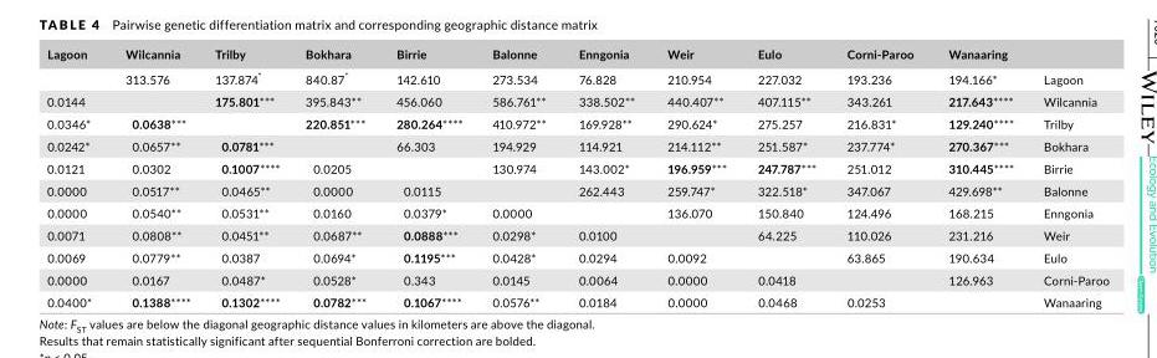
<table><thead><tr><td>Lagoon</td><td>Wilcannia</td><td>Trilby</td><td>Bokhara</td><td>Birrie</td><td>Balonne</td><td>Enngonia</td><td>Weir</td><td>Eulo</td><td>Corni‐Paroo</td><td>Wanaaring</td><td></td></tr></thead><tbody><tr><td></td><td>313.576</td><td>137.874*</td><td>840.87*</td><td>142.610</td><td>273.534</td><td>76.828</td><td>210.954</td><td>227.032</td><td>193.236</td><td>194.166*</td><td>Lagoon</td></tr><tr><td>0.0144</td><td></td><td>175.801***</td><td>395.843**</td><td>456.060</td><td>586.761**</td><td>338.502**</td><td>440.407**</td><td>407.115**</td><td>343.261</td><td>217.643****</td><td>Wilcannia</td></tr><tr><td>0.0346*</td><td>0.0638***</td><td></td><td>220.851***</td><td>280.264****</td><td>410.972**</td><td>169.928**</td><td>290.624*</td><td>275.257</td><td>216.831*</td><td>129.240****</td><td>Trilby</td></tr><tr><td>0.0242*</td><td>0.0657**</td><td>0.0781***</td><td></td><td>66.303</td><td>194.929</td><td>114.921</td><td>214.112**</td><td>251.587*</td><td>237.774*</td><td>270.367***</td><td>Bokhara</td></tr><tr><td>0.0121</td><td>0.0302</td><td>0.1007****</td><td>0.0205</td><td></td><td>130.974</td><td>143.002*</td><td>196.959***</td><td>247.787***</td><td>251.012</td><td>310.445****</td><td>Birrie</td></tr><tr><td>0.0000</td><td>0.0517**</td><td>0.0465**</td><td>0.0000</td><td>0.0115</td><td></td><td>262.443</td><td>259.747*</td><td>322.518*</td><td>347.067</td><td>429.698**</td><td>Balonne</td></tr><tr><td>0.0000</td><td>0.0540**</td><td>0.0531**</td><td>0.0160</td><td>0.0379*</td><td>0.0000</td><td></td><td>136.070</td><td>150.840</td><td>124.496</td><td>168.215</td><td>Enngonia</td></tr><tr><td>0.0071</td><td>0.0808**</td><td>0.0451**</td><td>0.0687**</td><td>0.0888***</td><td>0.0298*</td><td>0.0100</td><td></td><td>64.225</td><td>110.026</td><td>231.216</td><td>Weir</td></tr><tr><td>0.0069</td><td>0.0779**</td><td>0.0387</td><td>0.0694*</td><td>0.1195***</td><td>0.0428*</td><td>0.0294</td><td>0.0092</td><td></td><td>63.865</td><td>190.634</td><td>Eulo</td></tr><tr><td>0.0000</td><td>0.0167</td><td>0.0487*</td><td>0.0528*</td><td>0.343</td><td>0.0145</td><td>0.0064</td><td>0.0000</td><td>0.0418</td><td></td><td>126.963</td><td>Corni‐Paroo</td></tr><tr><td>0.0400*</td><td>0.1388****</td><td>0.1302****</td><td>0.0782***</td><td>0.1067****</td><td>0.0576**</td><td>0.0184</td><td>0.0000</td><td>0.0468</td><td>0.0253</td><td></td><td>Wanaaring</td></tr></tbody></table>